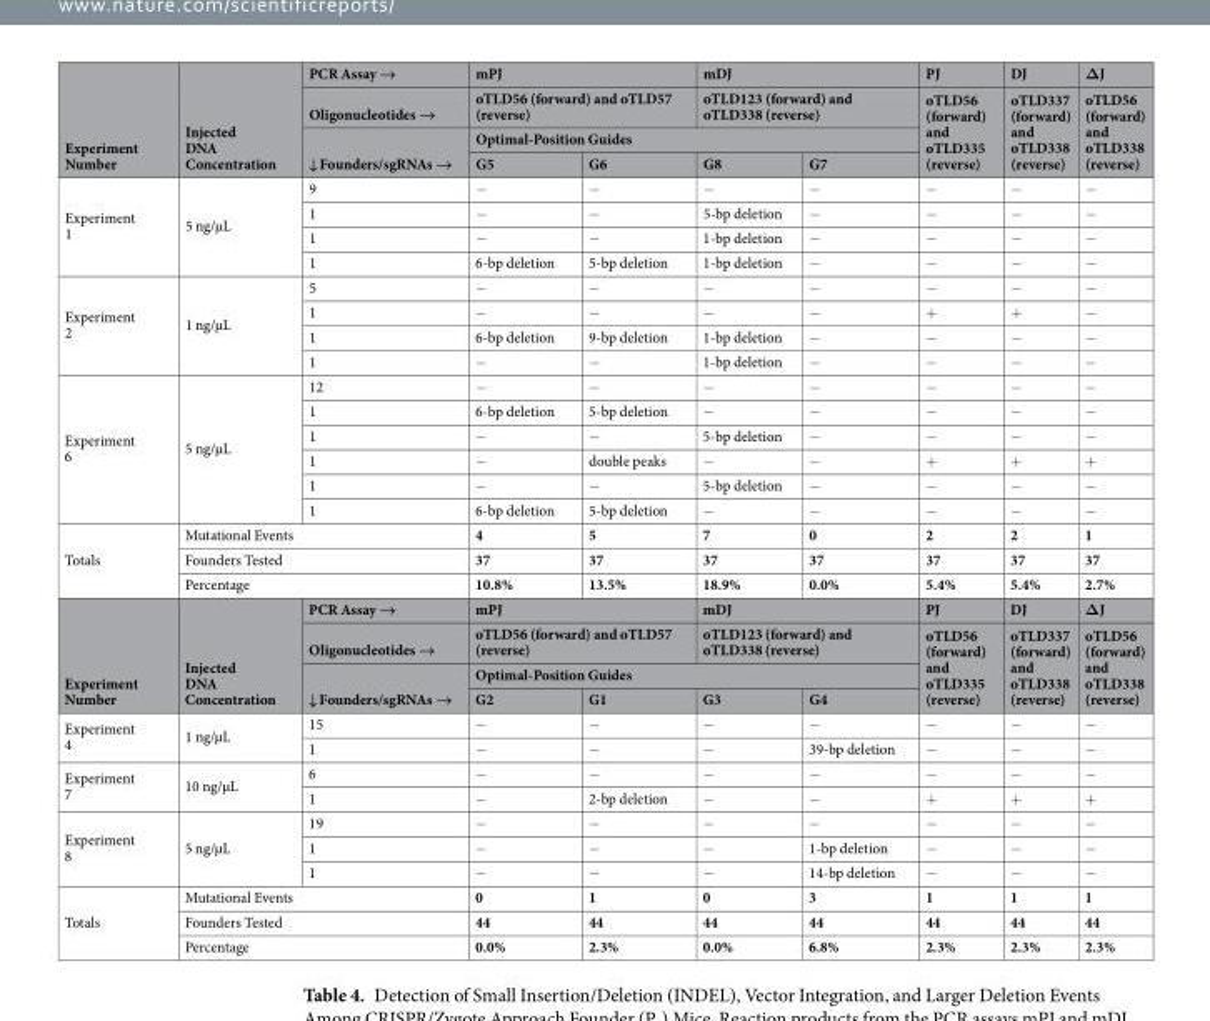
<table><thead><tr><td rowspan="4">Experiment Number</td><td rowspan="4">Injected DNA Concentration</td><td rowspan="4">PCR Assay → Oligonucleotides → ↓ Founders/sgRNAs →</td><td rowspan="2" colspan="2">mPJ oTLD56 (forward) and oTLD57 (reverse)</td><td rowspan="2" colspan="2">mDJ oTLD123 (forward) and oTLD338 (reverse)</td><td rowspan="4">PJ oTLD56 (forward) and oTLD335 (reverse)</td><td rowspan="4">DJ oTLD337 (forward) and oTLD338 (reverse)</td><td rowspan="4">ΔJ oTLD56 (forward) and oTLD338 (reverse)</td></tr><tr></tr><tr><td colspan="4">Optimal-Position Guides</td></tr><tr><td>G5</td><td>G6</td><td>G8</td><td>G7</td></tr></thead><tbody><tr><td rowspan="4">Experiment 1</td><td rowspan="4">5 ng/µL</td><td>9</td><td>−</td><td>−</td><td>−</td><td>−</td><td>−</td><td>−</td><td>−</td></tr><tr><td>1</td><td>−</td><td>−</td><td>5-bp deletion</td><td>−</td><td>−</td><td>−</td><td>−</td></tr><tr><td>1</td><td>−</td><td>−</td><td>1-bp deletion</td><td>−</td><td>−</td><td>−</td><td>−</td></tr><tr><td>1</td><td>6-bp deletion</td><td>5-bp deletion</td><td>1-bp deletion</td><td>−</td><td>−</td><td>−</td><td>−</td></tr><tr><td rowspan="4">Experiment 2</td><td rowspan="4">1 ng/µL</td><td>5</td><td>−</td><td>−</td><td>−</td><td>−</td><td>−</td><td>−</td><td>−</td></tr><tr><td>1</td><td>−</td><td>−</td><td>−</td><td>−</td><td>+</td><td>+</td><td>−</td></tr><tr><td>1</td><td>6-bp deletion</td><td>9-bp deletion</td><td>1-bp deletion</td><td>−</td><td>−</td><td>−</td><td>−</td></tr><tr><td>1</td><td>−</td><td>−</td><td>1-bp deletion</td><td>−</td><td>−</td><td>−</td><td>−</td></tr><tr><td rowspan="6">Experiment 6</td><td rowspan="6">5 ng/µL</td><td>12</td><td>−</td><td>−</td><td>−</td><td>−</td><td>−</td><td>−</td><td>−</td></tr><tr><td>1</td><td>6-bp deletion</td><td>5-bp deletion</td><td>−</td><td>−</td><td>−</td><td>−</td><td>−</td></tr><tr><td>1</td><td>−</td><td>−</td><td>5-bp deletion</td><td>−</td><td>−</td><td>−</td><td>−</td></tr><tr><td>1</td><td>−</td><td>double peaks</td><td>−</td><td>−</td><td>+</td><td>+</td><td>+</td></tr><tr><td>1</td><td>−</td><td>−</td><td>5-bp deletion</td><td>−</td><td>−</td><td>−</td><td>−</td></tr><tr><td>1</td><td>6-bp deletion</td><td>5-bp deletion</td><td>−</td><td>−</td><td>−</td><td>−</td><td>−</td></tr><tr><td rowspan="3">Totals</td><td colspan="2">Mutational Events</td><td>4</td><td>5</td><td>7</td><td>0</td><td>2</td><td>2</td><td>1</td></tr><tr><td colspan="2">Founders Tested</td><td>37</td><td>37</td><td>37</td><td>37</td><td>37</td><td>37</td><td>37</td></tr><tr><td colspan="2">Percentage</td><td>10.8%</td><td>13.5%</td><td>18.9%</td><td>0.0%</td><td>5.4%</td><td>5.4%</td><td>2.7%</td></tr><tr><td rowspan="4">Experiment Number</td><td rowspan="4">Injected DNA Concentration</td><td>PCR Assay →</td><td colspan="2">mPJ</td><td colspan="2">mDJ</td><td>PJ</td><td>DJ</td><td>ΔJ</td></tr><tr><td>Oligonucleotides →</td><td colspan="2">oTLD56 (forward) and oTLD57 (reverse)</td><td colspan="2">oTLD123 (forward) and oTLD338 (reverse)</td><td rowspan="3">oTLD56 (forward) and oTLD335 (reverse)</td><td rowspan="3">oTLD337 (forward) and oTLD338 (reverse)</td><td rowspan="3">oTLD56 (forward) and oTLD338 (reverse)</td></tr><tr><td rowspan="2">↓ Founders/sgRNAs →</td><td colspan="4">Optimal-Position Guides</td></tr><tr><td>G2</td><td>G1</td><td>G3</td><td>G4</td></tr><tr><td rowspan="2">Experiment 4</td><td rowspan="2">1 ng/µL</td><td>15</td><td>−</td><td>−</td><td>−</td><td>−</td><td>−</td><td>−</td><td>−</td></tr><tr><td>1</td><td>−</td><td>−</td><td>−</td><td>39-bp deletion</td><td>−</td><td>−</td><td>−</td></tr><tr><td rowspan="2">Experiment 7</td><td rowspan="2">10 ng/µL</td><td>6</td><td>−</td><td>−</td><td>−</td><td>−</td><td>−</td><td>−</td><td>−</td></tr><tr><td>1</td><td>−</td><td>2-bp deletion</td><td>−</td><td>−</td><td>+</td><td>+</td><td>+</td></tr><tr><td rowspan="3">Experiment 8</td><td rowspan="3">5 ng/µL</td><td>19</td><td>−</td><td>−</td><td>−</td><td>−</td><td>−</td><td>−</td><td>−</td></tr><tr><td>1</td><td>−</td><td>−</td><td>−</td><td>1-bp deletion</td><td>−</td><td>−</td><td>−</td></tr><tr><td>1</td><td>−</td><td>−</td><td>−</td><td>14-bp deletion</td><td>−</td><td>−</td><td>−</td></tr><tr><td rowspan="3">Totals</td><td colspan="2">Mutational Events</td><td>0</td><td>1</td><td>0</td><td>3</td><td>1</td><td>1</td><td>1</td></tr><tr><td colspan="2">Founders Tested</td><td>44</td><td>44</td><td>44</td><td>44</td><td>44</td><td>44</td><td>44</td></tr><tr><td colspan="2">Percentage</td><td>0.0%</td><td>2.3%</td><td>0.0%</td><td>6.8%</td><td>2.3%</td><td>2.3%</td><td>2.3%</td></tr></tbody></table>